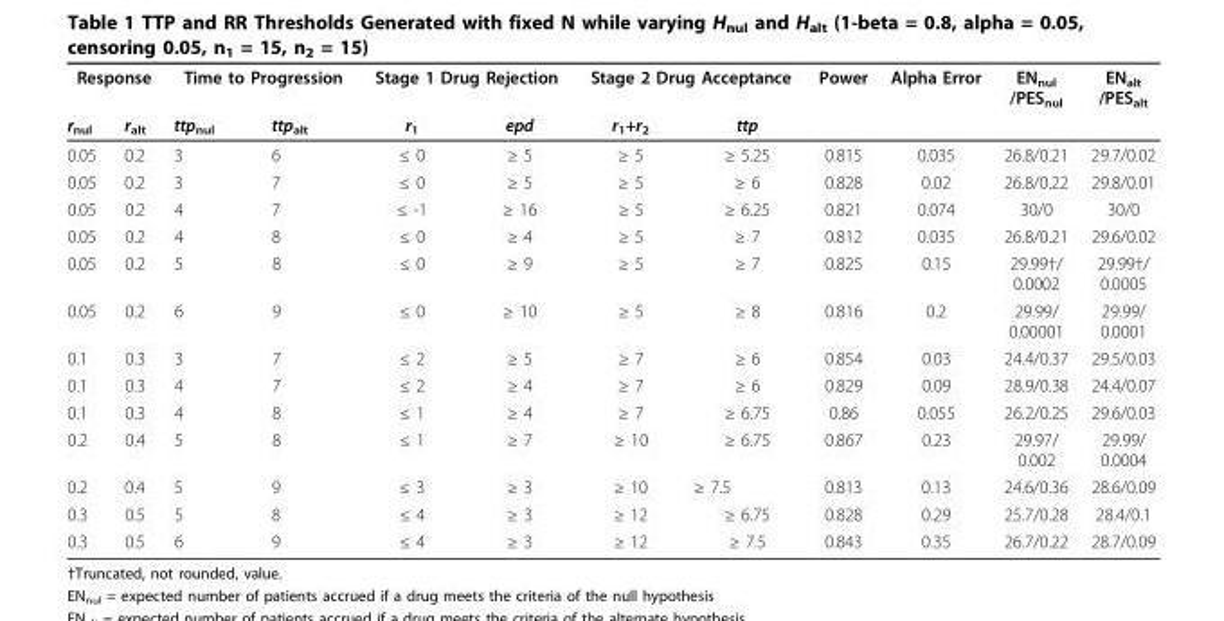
<table><thead><tr><td colspan="2">Response</td><td colspan="2">Time to Progression</td><td colspan="2">Stage 1 Drug Rejection</td><td colspan="2">Stage 2 Drug Acceptance</td><td rowspan="2">Power</td><td rowspan="2">Alpha Error</td><td rowspan="2">EN<sub>nul</sub> /PES<sub>nul</sub></td><td rowspan="2">EN<sub>alt</sub> /PES<sub>alt</sub></td></tr><tr><td>r<sub>nul</sub></td><td>r<sub>alt</sub></td><td>ttp<sub>nul</sub></td><td>ttp<sub>alt</sub></td><td>r<sub>1</sub></td><td>epd</td><td>r<sub>1</sub>+r<sub>2</sub></td><td>ttp</td></tr></thead><tbody><tr><td>0.05</td><td>0.2</td><td>3</td><td>6</td><td>≤ 0</td><td>≥ 5</td><td>≥ 5</td><td>≥ 5.25</td><td>0.815</td><td>0.035</td><td>26.8/0.21</td><td>29.7/0.02</td></tr><tr><td>0.05</td><td>0.2</td><td>3</td><td>7</td><td>≤ 0</td><td>≥ 5</td><td>≥ 5</td><td>≥ 6</td><td>0.828</td><td>0.02</td><td>26.8/0.22</td><td>29.8/0.01</td></tr><tr><td>0.05</td><td>0.2</td><td>4</td><td>7</td><td>≤ -1</td><td>≥ 16</td><td>≥ 5</td><td>≥ 6.25</td><td>0.821</td><td>0.074</td><td>30/0</td><td>30/0</td></tr><tr><td>0.05</td><td>0.2</td><td>4</td><td>8</td><td>≤ 0</td><td>≥ 4</td><td>≥ 5</td><td>≥ 7</td><td>0.812</td><td>0.035</td><td>26.8/0.21</td><td>29.6/0.02</td></tr><tr><td>0.05</td><td>0.2</td><td>5</td><td>8</td><td>≤ 0</td><td>≥ 9</td><td>≥ 5</td><td>≥ 7</td><td>0.825</td><td>0.15</td><td>29.99†/ 0.0002</td><td>29.99†/ 0.0005</td></tr><tr><td>0.05</td><td>0.2</td><td>6</td><td>9</td><td>≤ 0</td><td>≥ 10</td><td>≥ 5</td><td>≥ 8</td><td>0.816</td><td>0.2</td><td>29.99/ 0.00001</td><td>29.99/ 0.0001</td></tr><tr><td>0.1</td><td>0.3</td><td>3</td><td>7</td><td>≤ 2</td><td>≥ 5</td><td>≥ 7</td><td>≥ 6</td><td>0.854</td><td>0.03</td><td>24.4/0.37</td><td>29.5/0.03</td></tr><tr><td>0.1</td><td>0.3</td><td>4</td><td>7</td><td>≤ 2</td><td>≥ 4</td><td>≥ 7</td><td>≥ 6</td><td>0.829</td><td>0.09</td><td>28.9/0.38</td><td>24.4/0.07</td></tr><tr><td>0.1</td><td>0.3</td><td>4</td><td>8</td><td>≤ 1</td><td>≥ 4</td><td>≥ 7</td><td>≥ 6.75</td><td>0.86</td><td>0.055</td><td>26.2/0.25</td><td>29.6/0.03</td></tr><tr><td>0.2</td><td>0.4</td><td>5</td><td>8</td><td>≤ 1</td><td>≥ 7</td><td>≥ 10</td><td>≥ 6.75</td><td>0.867</td><td>0.23</td><td>29.97/ 0.002</td><td>29.99/ 0.0004</td></tr><tr><td>0.2</td><td>0.4</td><td>5</td><td>9</td><td>≤ 3</td><td>≥ 3</td><td>≥ 10</td><td>≥ 7.5</td><td>0.813</td><td>0.13</td><td>24.6/0.36</td><td>28.6/0.09</td></tr><tr><td>0.3</td><td>0.5</td><td>5</td><td>8</td><td>≤ 4</td><td>≥ 3</td><td>≥ 12</td><td>≥ 6.75</td><td>0.828</td><td>0.29</td><td>25.7/0.28</td><td>28.4/0.1</td></tr><tr><td>0.3</td><td>0.5</td><td>6</td><td>9</td><td>≤ 4</td><td>≥ 3</td><td>≥ 12</td><td>≥ 7.5</td><td>0.843</td><td>0.35</td><td>26.7/0.22</td><td>28.7/0.09</td></tr></tbody></table>